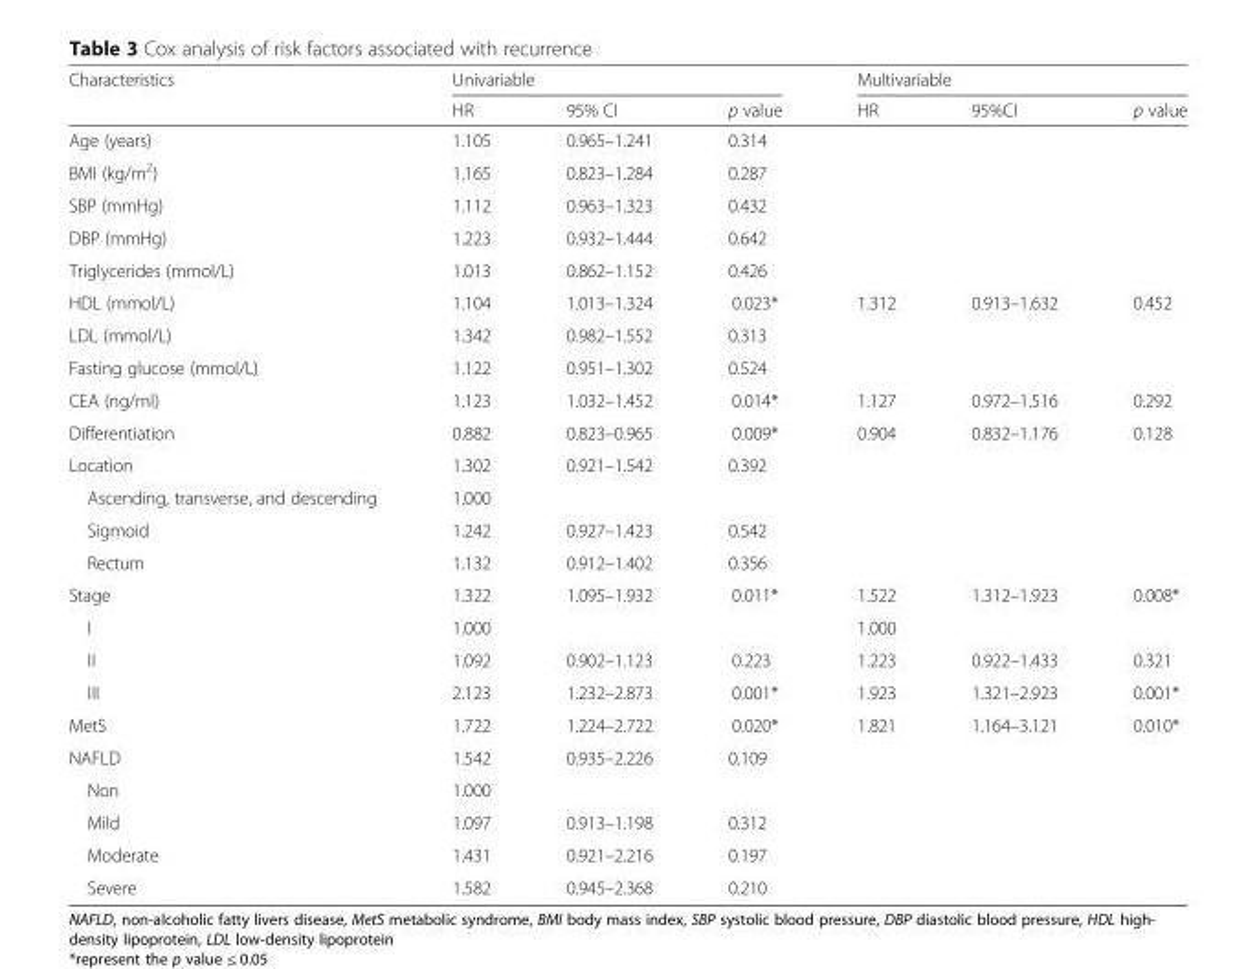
<table><thead><tr><td rowspan="2">Characteristics</td><td colspan="3">Univariable</td><td colspan="3">Multivariable</td></tr><tr><td>HR</td><td>95% CI</td><td>p value</td><td>HR</td><td>95%CI</td><td>p value</td></tr></thead><tbody><tr><td>Age (years)</td><td>1.105</td><td>0.965–1.241</td><td>0.314</td><td rowspan="5" colspan="3"></td></tr><tr><td>BMI (kg/m<sup>2</sup>)</td><td>1.165</td><td>0.823–1.284</td><td>0.287</td></tr><tr><td>SBP (mmHg)</td><td>1.112</td><td>0.963–1.323</td><td>0.432</td></tr><tr><td>DBP (mmHg)</td><td>1.223</td><td>0.932–1.444</td><td>0.642</td></tr><tr><td>Triglycerides (mmol/L)</td><td>1.013</td><td>0.862–1.152</td><td>0.426</td></tr><tr><td>HDL (mmol/L)</td><td>1.104</td><td>1.013–1.324</td><td>0.023*</td><td>1.312</td><td>0.913–1.632</td><td>0.452</td></tr><tr><td>LDL (mmol/L)</td><td>1.342</td><td>0.982–1.552</td><td>0.313</td><td rowspan="2" colspan="3"></td></tr><tr><td>Fasting glucose (mmol/L)</td><td>1.122</td><td>0.951–1.302</td><td>0.524</td></tr><tr><td>CEA (ng/ml)</td><td>1.123</td><td>1.032–1.452</td><td>0.014*</td><td>1.127</td><td>0.972–1.516</td><td>0.292</td></tr><tr><td>Differentiation</td><td>0.882</td><td>0.823–0.965</td><td>0.009*</td><td>0.904</td><td>0.832–1.176</td><td>0.128</td></tr><tr><td>Location</td><td>1.302</td><td>0.921–1.542</td><td>0.392</td><td rowspan="4" colspan="3"></td></tr><tr><td>Ascending, transverse, and descending</td><td colspan="3">1.000</td></tr><tr><td>Sigmoid</td><td>1.242</td><td>0.927–1.423</td><td>0.542</td></tr><tr><td>Rectum</td><td>1.132</td><td>0.912–1.402</td><td>0.356</td></tr><tr><td>Stage</td><td>1.322</td><td>1.095–1.932</td><td>0.011*</td><td>1.522</td><td>1.312–1.923</td><td>0.008*</td></tr><tr><td>I</td><td colspan="3">1.000</td><td colspan="3">1.000</td></tr><tr><td>II</td><td>1.092</td><td>0.902–1.123</td><td>0.223</td><td>1.223</td><td>0.922–1.433</td><td>0.321</td></tr><tr><td>III</td><td>2.123</td><td>1.232–2.873</td><td>0.001*</td><td>1.923</td><td>1.321–2.923</td><td>0.001*</td></tr><tr><td>MetS</td><td>1.722</td><td>1.224–2.722</td><td>0.020*</td><td>1.821</td><td>1.164–3.121</td><td>0.010*</td></tr><tr><td>NAFLD</td><td>1.542</td><td>0.935–2.226</td><td>0.109</td><td rowspan="5" colspan="3"></td></tr><tr><td>Non</td><td colspan="3">1.000</td></tr><tr><td>Mild</td><td>1.097</td><td>0.913–1.198</td><td>0.312</td></tr><tr><td>Moderate</td><td>1.431</td><td>0.921–2.216</td><td>0.197</td></tr><tr><td>Severe</td><td>1.582</td><td>0.945–2.368</td><td>0.210</td></tr></tbody></table>